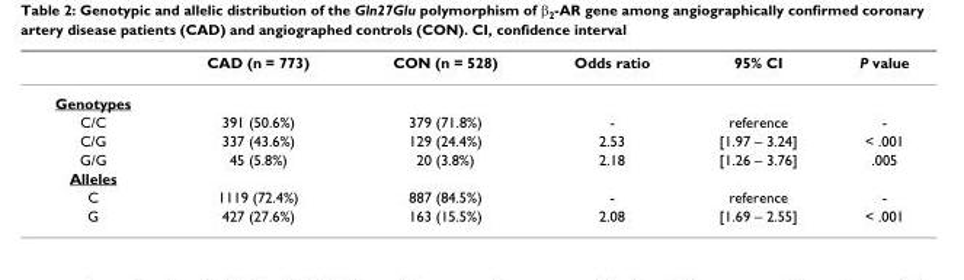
<table><thead><tr><td></td><td>CAD (n = 773)</td><td>CON (n = 528)</td><td>Odds ratio</td><td>95% CI</td><td>P value</td></tr></thead><tbody><tr><td colspan="6">Genotypes</td></tr><tr><td>C/C</td><td>391 (50.6%)</td><td>379 (71.8%)</td><td>-</td><td>reference</td><td>-</td></tr><tr><td>C/G</td><td>337 (43.6%)</td><td>129 (24.4%)</td><td>2.53</td><td>[1.97 – 3.24]</td><td>&lt; .001</td></tr><tr><td>G/G</td><td>45 (5.8%)</td><td>20 (3.8%)</td><td>2.18</td><td>[1.26 – 3.76]</td><td>.005</td></tr><tr><td colspan="6">Alleles</td></tr><tr><td>C</td><td>1119 (72.4%)</td><td>887 (84.5%)</td><td>-</td><td>reference</td><td>-</td></tr><tr><td>G</td><td>427 (27.6%)</td><td>163 (15.5%)</td><td>2.08</td><td>[1.69 – 2.55]</td><td>&lt; .001</td></tr></tbody></table>